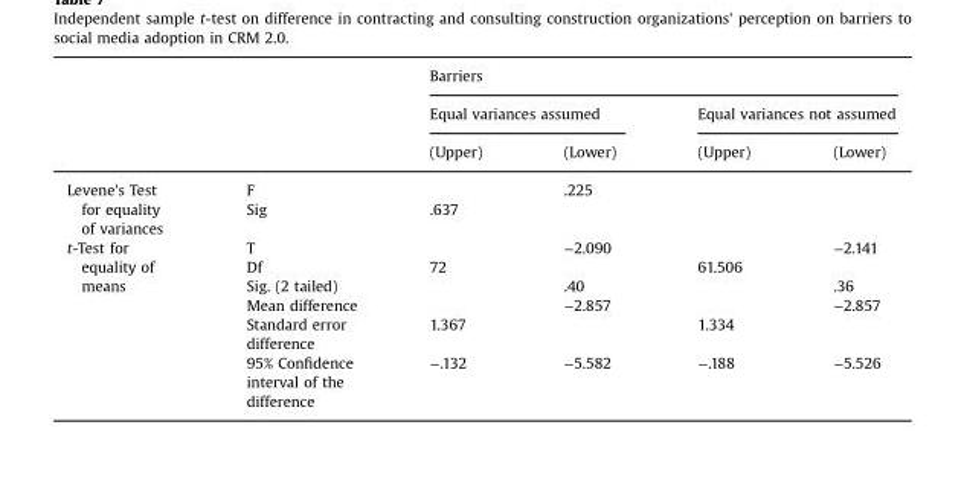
<table><thead><tr><td rowspan="3"></td><td rowspan="3"></td><td colspan="4">Barriers</td></tr><tr><td colspan="2">Equal variances assumed</td><td colspan="2">Equal variances not assumed</td></tr><tr><td>(Upper)</td><td>(Lower)</td><td>(Upper)</td><td>(Lower)</td></tr></thead><tbody><tr><td rowspan="2">Levene&#x27;s Test for equality of variances</td><td>F</td><td></td><td>.225</td><td></td><td></td></tr><tr><td>Sig</td><td>.637</td><td></td><td></td><td></td></tr><tr><td rowspan="6">t-Test for equality of means</td><td>T</td><td></td><td>−2.090</td><td></td><td>−2.141</td></tr><tr><td>Df</td><td>72</td><td></td><td>61.506</td><td></td></tr><tr><td>Sig. (2 tailed)</td><td></td><td>.40</td><td></td><td>.36</td></tr><tr><td>Mean difference</td><td></td><td>−2.857</td><td></td><td>−2.857</td></tr><tr><td>Standard error difference</td><td>1.367</td><td></td><td>1.334</td><td></td></tr><tr><td>95% Confidence interval of the difference</td><td>−.132</td><td>−5.582</td><td>−.188</td><td>−5.526</td></tr></tbody></table>